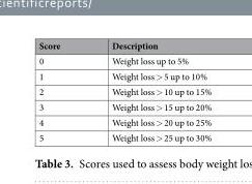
<table><thead><tr><td>Score</td><td>Description</td></tr></thead><tbody><tr><td>0</td><td>Weight loss up to 5%</td></tr><tr><td>1</td><td>Weight loss &gt; 5 up to 10%</td></tr><tr><td>2</td><td>Weight loss &gt; 10 up to 15%</td></tr><tr><td>3</td><td>Weight loss &gt; 15 up to 20%</td></tr><tr><td>4</td><td>Weight loss &gt; 20 up to 25%</td></tr><tr><td>5</td><td>Weight loss &gt; 25 up to 30%</td></tr></tbody></table>